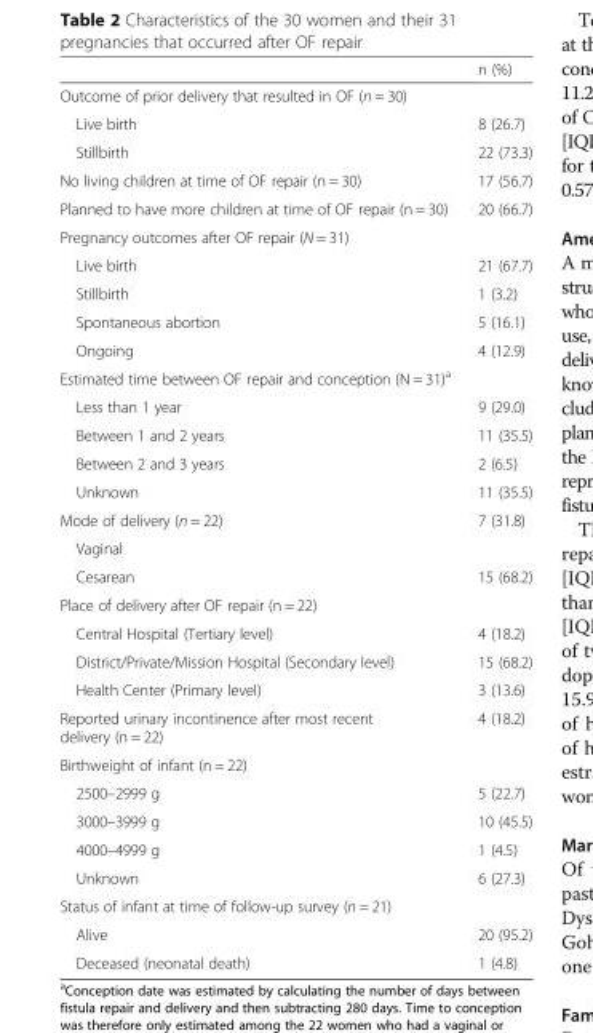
<table><thead><tr><td></td><td>n (%)</td></tr></thead><tbody><tr><td colspan="2">Outcome of prior delivery that resulted in OF (n = 30)</td></tr><tr><td>Live birth</td><td>8 (26.7)</td></tr><tr><td>Stillbirth</td><td>22 (73.3)</td></tr><tr><td>No living children at time of OF repair (n = 30)</td><td>17 (56.7)</td></tr><tr><td>Planned to have more children at time of OF repair (n = 30)</td><td>20 (66.7)</td></tr><tr><td colspan="2">Pregnancy outcomes after OF repair (N = 31)</td></tr><tr><td>Live birth</td><td>21 (67.7)</td></tr><tr><td>Stillbirth</td><td>1 (3.2)</td></tr><tr><td>Spontaneous abortion</td><td>5 (16.1)</td></tr><tr><td>Ongoing</td><td>4 (12.9)</td></tr><tr><td colspan="2">Estimated time between OF repair and conception (N = 31)<sup>a</sup></td></tr><tr><td>Less than 1 year</td><td>9 (29.0)</td></tr><tr><td>Between 1 and 2 years</td><td>11 (35.5)</td></tr><tr><td>Between 2 and 3 years</td><td>2 (6.5)</td></tr><tr><td>Unknown</td><td>11 (35.5)</td></tr><tr><td>Mode of delivery (n = 22)</td><td>7 (31.8)</td></tr><tr><td colspan="2">Vaginal</td></tr><tr><td>Cesarean</td><td>15 (68.2)</td></tr><tr><td colspan="2">Place of delivery after OF repair (n = 22)</td></tr><tr><td>Central Hospital (Tertiary level)</td><td>4 (18.2)</td></tr><tr><td>District/Private/Mission Hospital (Secondary level)</td><td>15 (68.2)</td></tr><tr><td>Health Center (Primary level)</td><td>3 (13.6)</td></tr><tr><td>Reported urinary incontinence after most recent delivery (n = 22)</td><td>4 (18.2)</td></tr><tr><td colspan="2">Birthweight of infant (n = 22)</td></tr><tr><td>2500–2999 g</td><td>5 (22.7)</td></tr><tr><td>3000–3999 g</td><td>10 (45.5)</td></tr><tr><td>4000–4999 g</td><td>1 (4.5)</td></tr><tr><td>Unknown</td><td>6 (27.3)</td></tr><tr><td colspan="2">Status of infant at time of follow-up survey (n = 21)</td></tr><tr><td>Alive</td><td>20 (95.2)</td></tr><tr><td>Deceased (neonatal death)</td><td>1 (4.8)</td></tr></tbody></table>